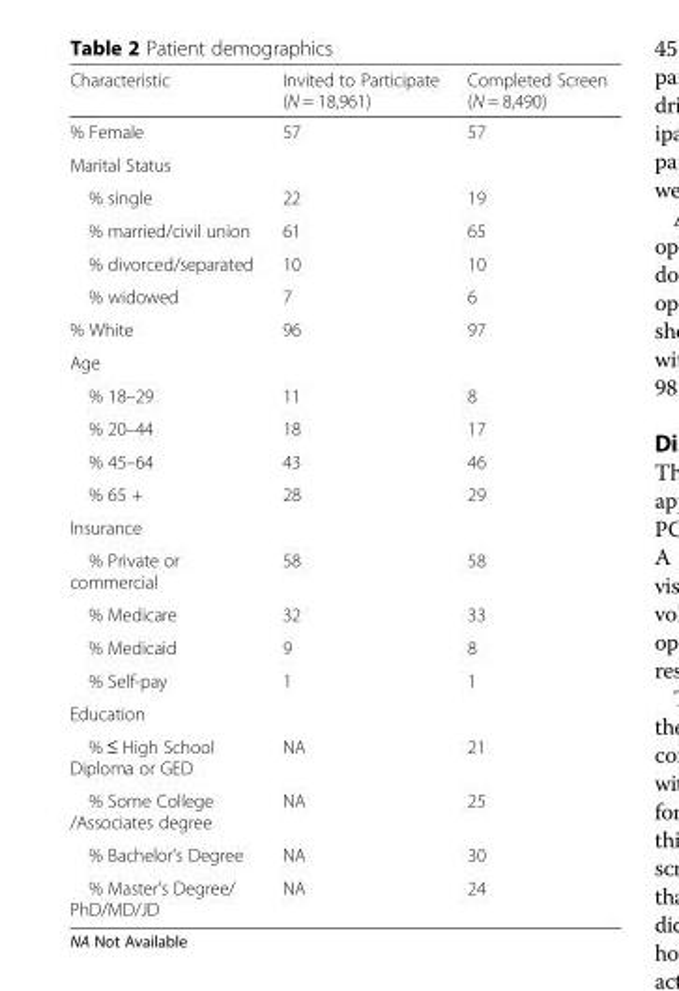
<table><thead><tr><td>Characteristic</td><td>Invited to Participate (N = 18,961)</td><td>Completed Screen (N = 8,490)</td></tr></thead><tbody><tr><td>% Female</td><td>57</td><td>57</td></tr><tr><td colspan="3">Marital Status</td></tr><tr><td>% single</td><td>22</td><td>19</td></tr><tr><td>% married/civil union</td><td>61</td><td>65</td></tr><tr><td>% divorced/separated</td><td>10</td><td>10</td></tr><tr><td>% widowed</td><td>7</td><td>6</td></tr><tr><td>% White</td><td>96</td><td>97</td></tr><tr><td colspan="3">Age</td></tr><tr><td>% 18–29</td><td>11</td><td>8</td></tr><tr><td>% 20–44</td><td>18</td><td>17</td></tr><tr><td>% 45–64</td><td>43</td><td>46</td></tr><tr><td>% 65 +</td><td>28</td><td>29</td></tr><tr><td colspan="3">Insurance</td></tr><tr><td>% Private or commercial</td><td>58</td><td>58</td></tr><tr><td>% Medicare</td><td>32</td><td>33</td></tr><tr><td>% Medicaid</td><td>9</td><td>8</td></tr><tr><td>% Self-pay</td><td>1</td><td>1</td></tr><tr><td colspan="3">Education</td></tr><tr><td>% ≤ High School Diploma or GED</td><td>NA</td><td>21</td></tr><tr><td>% Some College /Associates degree</td><td>NA</td><td>25</td></tr><tr><td>% Bachelor’s Degree</td><td>NA</td><td>30</td></tr><tr><td>% Master’s Degree/ PhD/MD/JD</td><td>NA</td><td>24</td></tr></tbody></table>